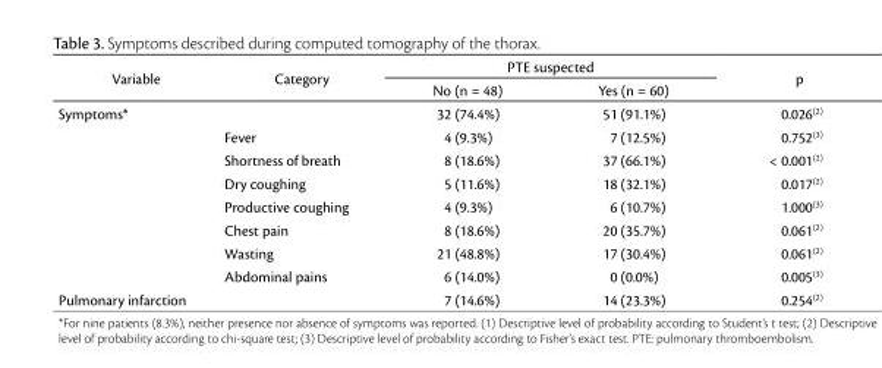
<table><thead><tr><td rowspan="2">Variable</td><td rowspan="2">Category</td><td colspan="2">PTE suspected</td><td rowspan="2">p</td></tr><tr><td>No (n = 48)</td><td>Yes (n = 60)</td></tr></thead><tbody><tr><td rowspan="8">Symptoms*</td><td></td><td>32 (74.4%)</td><td>51 (91.1%)</td><td>0.026(2)</td></tr><tr><td>Fever</td><td>4 (9.3%)</td><td>7 (12.5%)</td><td>0.752(3)</td></tr><tr><td>Shortness of breath</td><td>8 (18.6%)</td><td>37 (66.1%)</td><td>&lt; 0.001(2)</td></tr><tr><td>Dry coughing</td><td>5 (11.6%)</td><td>18 (32.1%)</td><td>0.017(2)</td></tr><tr><td>Productive coughing</td><td>4 (9.3%)</td><td>6 (10.7%)</td><td>1.000(3)</td></tr><tr><td>Chest pain</td><td>8 (18.6%)</td><td>20 (35.7%)</td><td>0.061(2)</td></tr><tr><td>Wasting</td><td>21 (48.8%)</td><td>17 (30.4%)</td><td>0.061(2)</td></tr><tr><td>Abdominal pains</td><td>6 (14.0%)</td><td>0 (0.0%)</td><td>0.005(3)</td></tr><tr><td>Pulmonary infarction</td><td></td><td>7 (14.6%)</td><td>14 (23.3%)</td><td>0.254(2)</td></tr></tbody></table>